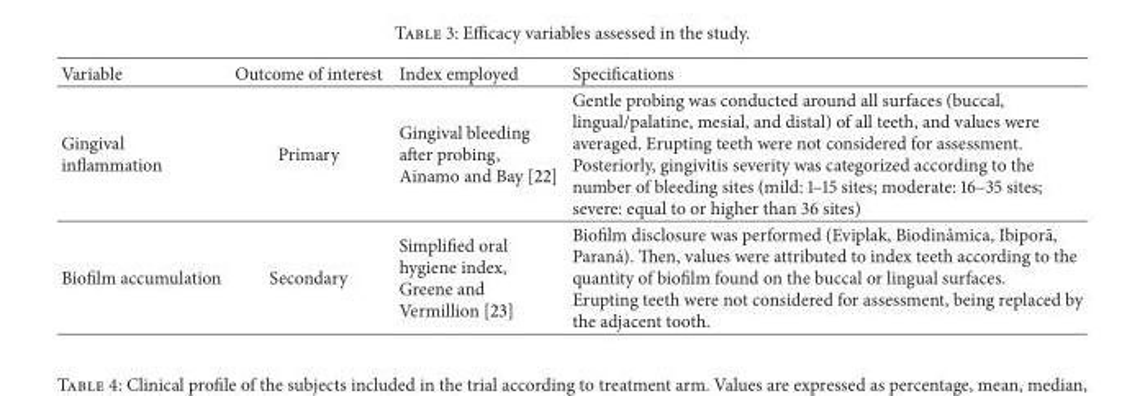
<table><thead><tr><td>Variable</td><td>Outcome of interest</td><td>Index employed</td><td>Specifications</td></tr></thead><tbody><tr><td>Gingival inflammation</td><td>Primary</td><td>Gingival bleeding after probing, Ainamo and Bay [22]</td><td>Gentle probing was conducted around all surfaces (buccal, lingual/palatine, mesial, and distal) of all teeth, and values were averaged. Erupting teeth were not considered for assessment. Posteriorly, gingivitis severity was categorized according to the number of bleeding sites (mild: 1–15 sites; moderate: 16–35 sites; severe: equal to or higher than 36 sites)</td></tr><tr><td>Biofilm accumulation</td><td>Secondary</td><td>Simplified oral hygiene index, Greene and Vermillion [23]</td><td>Biofilm disclosure was performed (Eviplak, Biodinˆamica, Ibipor˜a, Paran´a). Then, values were attributed to index teeth according to the quantity of biofilm found on the buccal or lingual surfaces. Erupting teeth were not considered for assessment, being replaced by the adjacent tooth.</td></tr></tbody></table>